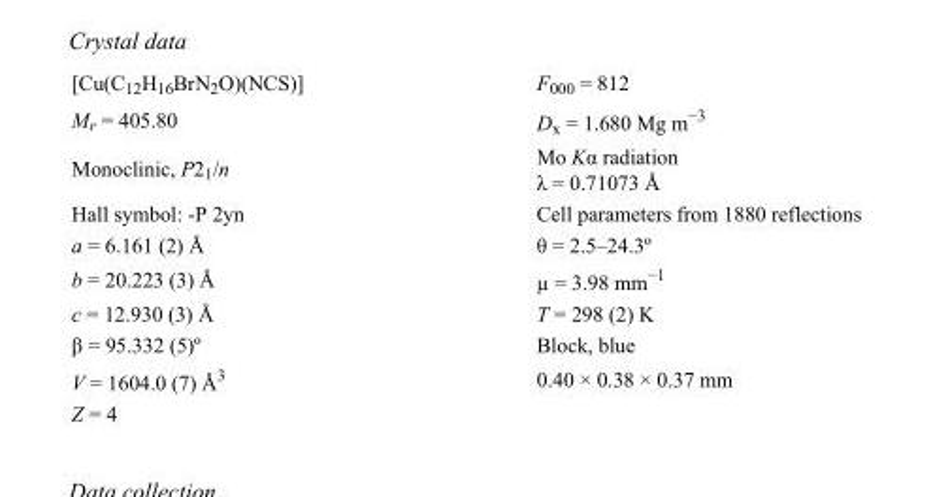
<table><tbody><tr><td>[Cu(C<sub>12</sub>H<sub>16</sub>BrN<sub>2</sub>O)(NCS)]</td><td>F<sub>000</sub> = 812</td></tr><tr><td>M<sub>r</sub> = 405.80</td><td>D<sub>x</sub> = 1.680 Mg m<sup>−3</sup></td></tr><tr><td>Monoclinic, P2<sub>1</sub>/n</td><td>Mo Kα radiation λ = 0.71073 Å</td></tr><tr><td>Hall symbol: -P 2yn</td><td>Cell parameters from 1880 reflections</td></tr><tr><td>a = 6.161 (2) Å</td><td>θ = 2.5–24.3º</td></tr><tr><td>b = 20.223 (3) Å</td><td>µ = 3.98 mm<sup>−1</sup></td></tr><tr><td>c = 12.930 (3) Å</td><td>T = 298 (2) K</td></tr><tr><td>β = 95.332 (5)º</td><td>Block, blue</td></tr><tr><td>V = 1604.0 (7) Å<sup>3</sup></td><td>0.40 × 0.38 × 0.37 mm</td></tr><tr><td>Z = 4</td><td></td></tr></tbody></table>